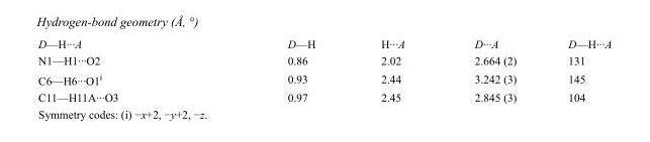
<table><tbody><tr><td>D—H···A</td><td>D—H</td><td>H···A</td><td>D···A</td><td>D—H···A</td></tr><tr><td>N1—H1···O2</td><td>0.86</td><td>2.02</td><td>2.664 (2)</td><td>131</td></tr><tr><td>C6—H6···O1<sup>i</sup></td><td>0.93</td><td>2.44</td><td>3.242 (3)</td><td>145</td></tr><tr><td>C11—H11A···O3</td><td>0.97</td><td>2.45</td><td>2.845 (3)</td><td>104</td></tr></tbody></table>